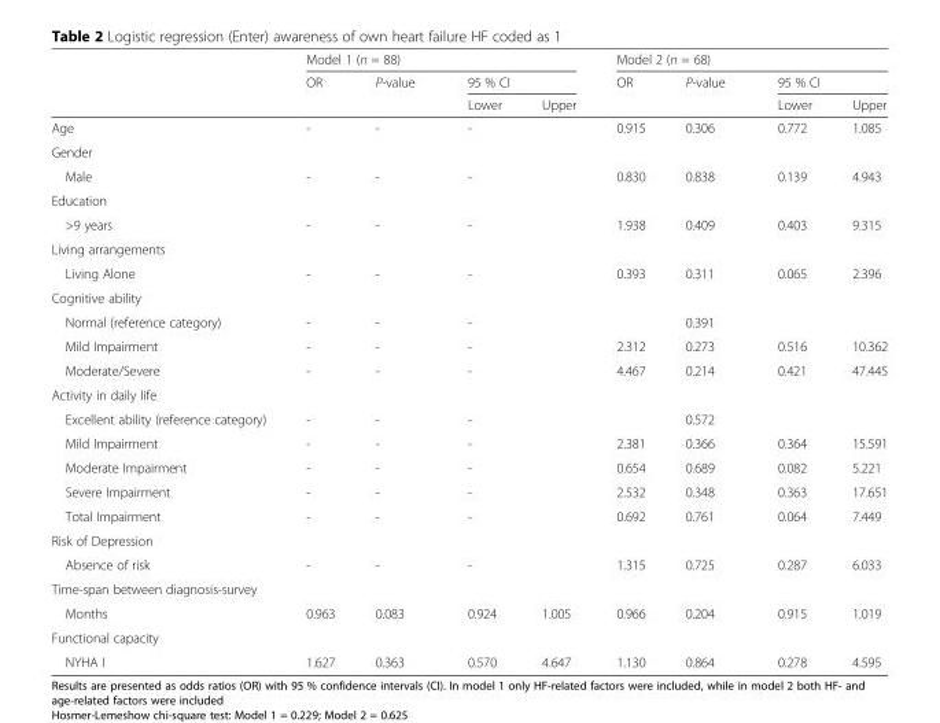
<table><thead><tr><td rowspan="3"></td><td colspan="4">Model 1 (n = 88)</td><td colspan="4">Model 2 (n = 68)</td></tr><tr><td rowspan="2">OR</td><td rowspan="2">P-value</td><td colspan="2">95 % CI</td><td rowspan="2">OR</td><td rowspan="2">P-value</td><td colspan="2">95 % CI</td></tr><tr><td>Lower</td><td>Upper</td><td>Lower</td><td>Upper</td></tr></thead><tbody><tr><td>Age</td><td>-</td><td>-</td><td>-</td><td></td><td>0.915</td><td>0.306</td><td>0.772</td><td>1.085</td></tr><tr><td colspan="9">Gender</td></tr><tr><td>Male</td><td>-</td><td>-</td><td>-</td><td></td><td>0.830</td><td>0.838</td><td>0.139</td><td>4.943</td></tr><tr><td colspan="9">Education</td></tr><tr><td>&gt;9 years</td><td>-</td><td>-</td><td>-</td><td></td><td>1.938</td><td>0.409</td><td>0.403</td><td>9.315</td></tr><tr><td colspan="9">Living arrangements</td></tr><tr><td>Living Alone</td><td>-</td><td>-</td><td>-</td><td></td><td>0.393</td><td>0.311</td><td>0.065</td><td>2.396</td></tr><tr><td colspan="9">Cognitive ability</td></tr><tr><td>Normal (reference category)</td><td>-</td><td>-</td><td>-</td><td></td><td></td><td>0.391</td><td></td><td></td></tr><tr><td>Mild Impairment</td><td>-</td><td>-</td><td>-</td><td></td><td>2.312</td><td>0.273</td><td>0.516</td><td>10.362</td></tr><tr><td>Moderate/Severe</td><td>-</td><td>-</td><td>-</td><td></td><td>4.467</td><td>0.214</td><td>0.421</td><td>47.445</td></tr><tr><td colspan="9">Activity in daily life</td></tr><tr><td>Excellent ability (reference category)</td><td>-</td><td>-</td><td>-</td><td></td><td></td><td>0.572</td><td></td><td></td></tr><tr><td>Mild Impairment</td><td>-</td><td>-</td><td>-</td><td></td><td>2.381</td><td>0.366</td><td>0.364</td><td>15.591</td></tr><tr><td>Moderate Impairment</td><td>-</td><td>-</td><td>-</td><td></td><td>0.654</td><td>0.689</td><td>0.082</td><td>5.221</td></tr><tr><td>Severe Impairment</td><td>-</td><td>-</td><td>-</td><td></td><td>2.532</td><td>0.348</td><td>0.363</td><td>17.651</td></tr><tr><td>Total Impairment</td><td>-</td><td>-</td><td>-</td><td></td><td>0.692</td><td>0.761</td><td>0.064</td><td>7.449</td></tr><tr><td colspan="9">Risk of Depression</td></tr><tr><td>Absence of risk</td><td>-</td><td>-</td><td>-</td><td></td><td>1.315</td><td>0.725</td><td>0.287</td><td>6.033</td></tr><tr><td colspan="9">Time-span between diagnosis-survey</td></tr><tr><td>Months</td><td>0.963</td><td>0.083</td><td>0.924</td><td>1.005</td><td>0.966</td><td>0.204</td><td>0.915</td><td>1.019</td></tr><tr><td colspan="9">Functional capacity</td></tr><tr><td>NYHA I</td><td>1.627</td><td>0.363</td><td>0.570</td><td>4.647</td><td>1.130</td><td>0.864</td><td>0.278</td><td>4.595</td></tr></tbody></table>